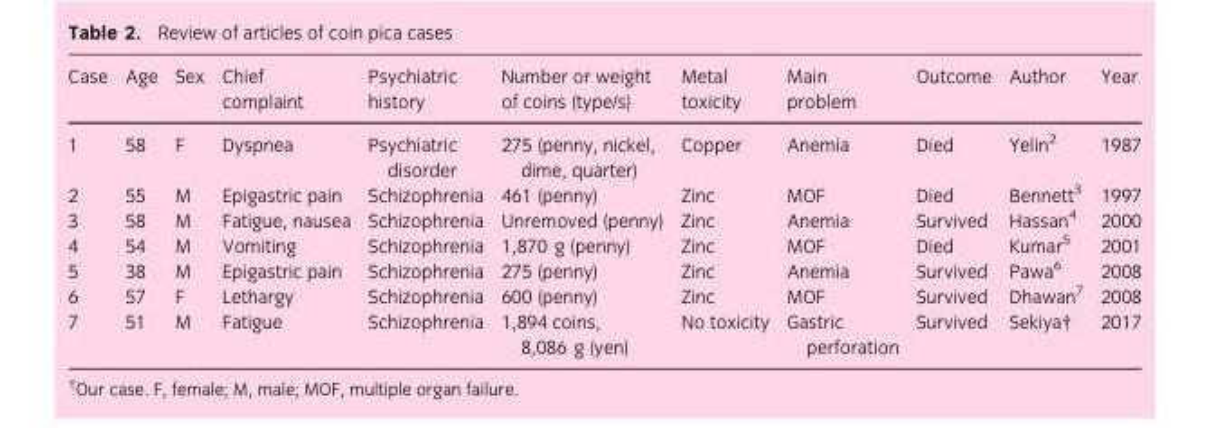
<table><thead><tr><td>Case</td><td>Age</td><td>Sex</td><td>Chief complaint</td><td>Psychiatric history</td><td>Number or weight of coins (type/s)</td><td>Metal toxicity</td><td>Main problem</td><td>Outcome</td><td>Author</td><td>Year</td></tr></thead><tbody><tr><td>1</td><td>58</td><td>F</td><td>Dyspnea</td><td>Psychiatric disorder</td><td>275 (penny, nickel, dime, quarter)</td><td>Copper</td><td>Anemia</td><td>Died</td><td>Yelin<sup>2</sup></td><td>1987</td></tr><tr><td>2</td><td>55</td><td>M</td><td>Epigastric pain</td><td>Schizophrenia</td><td>461 (penny)</td><td>Zinc</td><td>MOF</td><td>Died</td><td>Bennett<sup>3</sup></td><td>1997</td></tr><tr><td>3</td><td>58</td><td>M</td><td>Fatigue, nausea</td><td>Schizophrenia</td><td>Unremoved (penny)</td><td>Zinc</td><td>Anemia</td><td>Survived</td><td>Hassan<sup>4</sup></td><td>2000</td></tr><tr><td>4</td><td>54</td><td>M</td><td>Vomiting</td><td>Schizophrenia</td><td>1,870 g (penny)</td><td>Zinc</td><td>MOF</td><td>Died</td><td>Kumar<sup>5</sup></td><td>2001</td></tr><tr><td>5</td><td>38</td><td>M</td><td>Epigastric pain</td><td>Schizophrenia</td><td>275 (penny)</td><td>Zinc</td><td>Anemia</td><td>Survived</td><td>Pawa<sup>6</sup></td><td>2008</td></tr><tr><td>6</td><td>57</td><td>F</td><td>Lethargy</td><td>Schizophrenia</td><td>600 (penny)</td><td>Zinc</td><td>MOF</td><td>Survived</td><td>Dhawan<sup>7</sup></td><td>2008</td></tr><tr><td>7</td><td>51</td><td>M</td><td>Fatigue</td><td>Schizophrenia</td><td>1,894 coins, 8,086 g (yen)</td><td>No toxicity</td><td>Gastric perforation</td><td>Survived</td><td>Sekiya†</td><td>2017</td></tr></tbody></table>